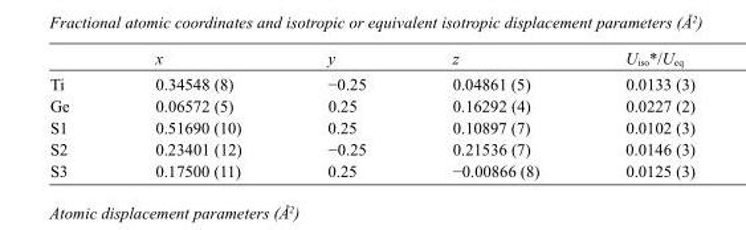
<table><thead><tr><td></td><td>x</td><td>y</td><td>z</td><td>U<sub>iso</sub>*/U<sub>eq</sub></td></tr></thead><tbody><tr><td>Ti</td><td>0.34548 (8)</td><td>−0.25</td><td>0.04861 (5)</td><td>0.0133 (3)</td></tr><tr><td>Ge</td><td>0.06572 (5)</td><td>0.25</td><td>0.16292 (4)</td><td>0.0227 (2)</td></tr><tr><td>S1</td><td>0.51690 (10)</td><td>0.25</td><td>0.10897 (7)</td><td>0.0102 (3)</td></tr><tr><td>S2</td><td>0.23401 (12)</td><td>−0.25</td><td>0.21536 (7)</td><td>0.0146 (3)</td></tr><tr><td>S3</td><td>0.17500 (11)</td><td>0.25</td><td>−0.00866 (8)</td><td>0.0125 (3)</td></tr></tbody></table>